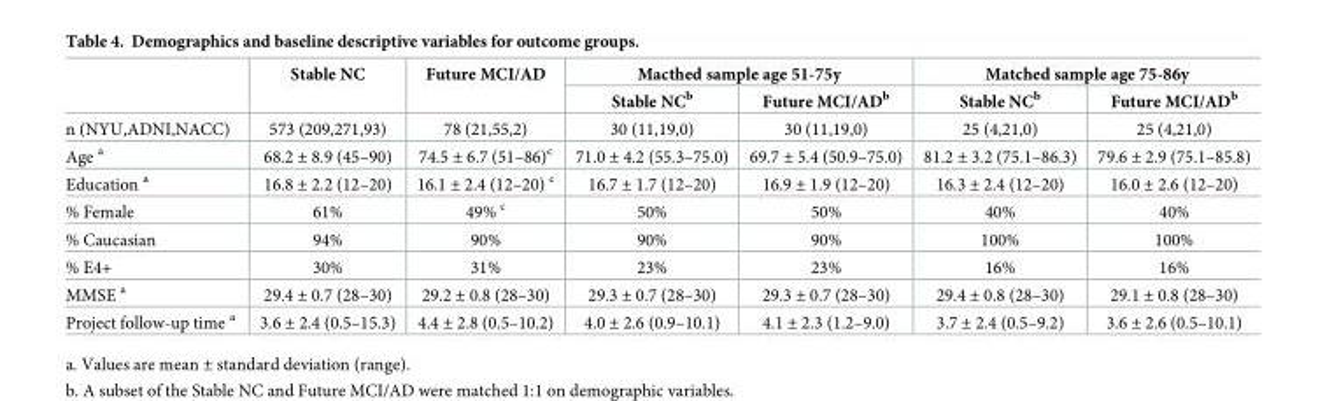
<table><thead><tr><td rowspan="2"></td><td rowspan="2">Stable NC</td><td rowspan="2">Future MCI/AD</td><td colspan="2">Macthed sample age 51-75y</td><td colspan="2">Matched sample age 75-86y</td></tr><tr><td>Stable NC<sup>b</sup></td><td>Future MCI/AD<sup>b</sup></td><td>Stable NC<sup>b</sup></td><td>Future MCI/AD<sup>b</sup></td></tr></thead><tbody><tr><td>n (NYU,ADNI,NACC)</td><td>573 (209,271,93)</td><td>78 (21,55,2)</td><td>30 (11,19,0)</td><td>30 (11,19,0)</td><td>25 (4,21,0)</td><td>25 (4,21,0)</td></tr><tr><td>Age <sup>a</sup></td><td>68.2 ± 8.9 (45–90)</td><td>74.5 ± 6.7 (51–86)<sup>c</sup></td><td>71.0 ± 4.2 (55.3–75.0)</td><td>69.7 ± 5.4 (50.9–75.0)</td><td>81.2 ± 3.2 (75.1–86.3)</td><td>79.6 ± 2.9 (75.1–85.8)</td></tr><tr><td>Education <sup>a</sup></td><td>16.8 ± 2.2 (12–20)</td><td>16.1 ± 2.4 (12–20) <sup>c</sup></td><td>16.7 ± 1.7 (12–20)</td><td>16.9 ± 1.9 (12–20)</td><td>16.3 ± 2.4 (12–20)</td><td>16.0 ± 2.6 (12–20)</td></tr><tr><td>% Female</td><td>61%</td><td>49% <sup>c</sup></td><td>50%</td><td>50%</td><td>40%</td><td>40%</td></tr><tr><td>% Caucasian</td><td>94%</td><td>90%</td><td>90%</td><td>90%</td><td>100%</td><td>100%</td></tr><tr><td>% E4+</td><td>30%</td><td>31%</td><td>23%</td><td>23%</td><td>16%</td><td>16%</td></tr><tr><td>MMSE <sup>a</sup></td><td>29.4 ± 0.7 (28–30)</td><td>29.2 ± 0.8 (28–30)</td><td>29.3 ± 0.7 (28–30)</td><td>29.3 ± 0.7 (28–30)</td><td>29.4 ± 0.8 (28–30)</td><td>29.1 ± 0.8 (28–30)</td></tr><tr><td>Project follow-up time <sup>a</sup></td><td>3.6 ± 2.4 (0.5–15.3)</td><td>4.4 ± 2.8 (0.5–10.2)</td><td>4.0 ± 2.6 (0.9–10.1)</td><td>4.1 ± 2.3 (1.2–9.0)</td><td>3.7 ± 2.4 (0.5–9.2)</td><td>3.6 ± 2.6 (0.5–10.1)</td></tr></tbody></table>